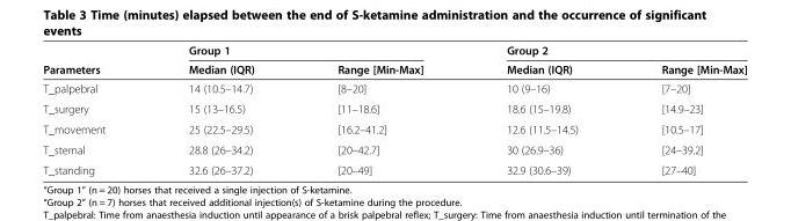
<table><thead><tr><td rowspan="2">Parameters</td><td colspan="2">Group 1</td><td colspan="2">Group 2</td></tr><tr><td>Median (IQR)</td><td>Range [Min-Max]</td><td>Median (IQR)</td><td>Range [Min-Max]</td></tr></thead><tbody><tr><td>T_palpebral</td><td>14 (10.5–14.7)</td><td>[8–20]</td><td>10 (9–16)</td><td>[7–20]</td></tr><tr><td>T_surgery</td><td>15 (13–16.5)</td><td>[11–18.6]</td><td>18.6 (15–19.8)</td><td>[14.9–23]</td></tr><tr><td>T_movement</td><td>25 (22.5–29.5)</td><td>[16.2–41.2]</td><td>12.6 (11.5–14.5)</td><td>[10.5–17]</td></tr><tr><td>T_sternal</td><td>28.8 (26–34.2)</td><td>[20–42.7]</td><td>30 (26.9–36)</td><td>[24–39.2]</td></tr><tr><td>T_standing</td><td>32.6 (26–37.2)</td><td>[20–49]</td><td>32.9 (30.6–39)</td><td>[27–40]</td></tr></tbody></table>